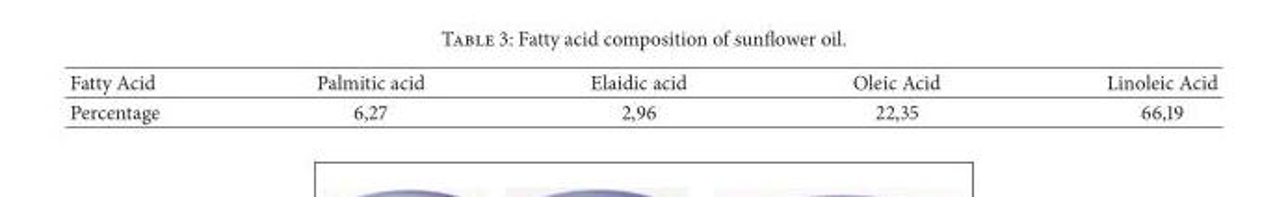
<table><thead><tr><td>Fatty Acid</td><td>Palmitic acid</td><td>Elaidic acid</td><td>Oleic Acid</td><td>Linoleic Acid</td></tr></thead><tbody><tr><td>Percentage</td><td>6,27</td><td>2,96</td><td>22,35</td><td>66,19</td></tr></tbody></table>